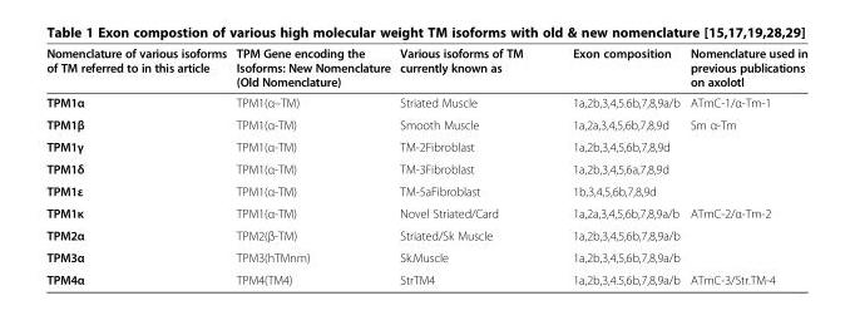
<table><thead><tr><td>Nomenclature of various isoforms of TM referred to in this article</td><td>TPM Gene encoding the Isoforms: New Nomenclature (Old Nomenclature)</td><td>Various isoforms of TM currently known as</td><td>Exon composition</td><td>Nomenclature used in previous publications on axolotl</td></tr></thead><tbody><tr><td>TPM1α</td><td>TPM1(α–TM)</td><td>Striated Muscle</td><td>1a,2b,3,4,5.6b,7,8,9a/b</td><td>ATmC-1/α-Tm-1</td></tr><tr><td>TPM1β</td><td>TPM1(α-TM)</td><td>Smooth Muscle</td><td>1a,2a,3,4,5,6b,7,8,9d</td><td>Sm α-Tm</td></tr><tr><td>TPM1γ</td><td>TPM1(α-TM)</td><td>TM-2Fibroblast</td><td>1a,2b,3,4,5,6b,7,8,9d</td><td></td></tr><tr><td>TPM1δ</td><td>TPM1(α-TM)</td><td>TM-3Fibroblast</td><td>1a,2b,3,4,5,6a,7,8,9d</td><td></td></tr><tr><td>TPM1ε</td><td>TPM1(α-TM)</td><td>TM-5aFibroblast</td><td>1b,3,4,5,6b,7,8,9d</td><td></td></tr><tr><td>TPM1κ</td><td>TPM1(α-TM)</td><td>Novel Striated/Card</td><td>1a,2a,3,4,5,6b,7,8,9a/b</td><td>ATmC-2/α-Tm-2</td></tr><tr><td>TPM2α</td><td>TPM2(β-TM)</td><td>Striated/Sk Muscle</td><td>1a,2b,3,4,5,6b,7,8,9a/b</td><td></td></tr><tr><td>TPM3α</td><td>TPM3(hTMnm)</td><td>Sk.Muscle</td><td>1a,2b,3,4,5,6b,7,8,9a/b</td><td></td></tr><tr><td>TPM4α</td><td>TPM4(TM4)</td><td>StrTM4</td><td>1a,2b,3,4.5,6b,7,8,9a/b</td><td>ATmC-3/Str.TM-4</td></tr></tbody></table>